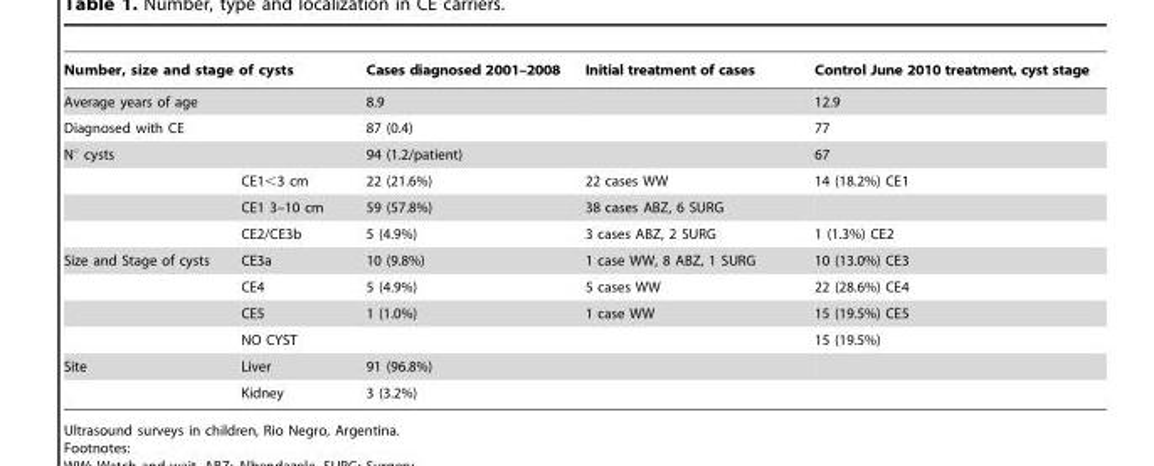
<table><thead><tr><td colspan="2">Number, size and stage of cysts</td><td>Cases diagnosed 2001–2008</td><td>Initial treatment of cases</td><td>Control June 2010 treatment, cyst stage</td></tr></thead><tbody><tr><td colspan="2">Average years of age</td><td>8.9</td><td></td><td>12.9</td></tr><tr><td colspan="2">Diagnosed with CE</td><td>87 (0.4)</td><td></td><td>77</td></tr><tr><td colspan="2">N° cysts</td><td>94 (1.2/patient)</td><td></td><td>67</td></tr><tr><td></td><td>CE1&lt;3 cm</td><td>22 (21.6%)</td><td>22 cases WW</td><td>14 (18.2%) CE1</td></tr><tr><td></td><td>CE1 3–10 cm</td><td>59 (57.8%)</td><td>38 cases ABZ, 6 SURG</td><td></td></tr><tr><td></td><td>CE2/CE3b</td><td>5 (4.9%)</td><td>3 cases ABZ, 2 SURG</td><td>1 (1.3%) CE2</td></tr><tr><td rowspan="4">Size and Stage of cysts</td><td>CE3a</td><td>10 (9.8%)</td><td>1 case WW, 8 ABZ, 1 SURG</td><td>10 (13.0%) CE3</td></tr><tr><td>CE4</td><td>5 (4.9%)</td><td>5 cases WW</td><td>22 (28.6%) CE4</td></tr><tr><td>CE5</td><td>1 (1.0%)</td><td>1 case WW</td><td>15 (19.5%) CE5</td></tr><tr><td>NO CYST</td><td></td><td></td><td>15 (19.5%)</td></tr><tr><td rowspan="2">Site</td><td>Liver</td><td>91 (96.8%)</td><td></td><td></td></tr><tr><td>Kidney</td><td>3 (3.2%)</td><td></td><td></td></tr></tbody></table>